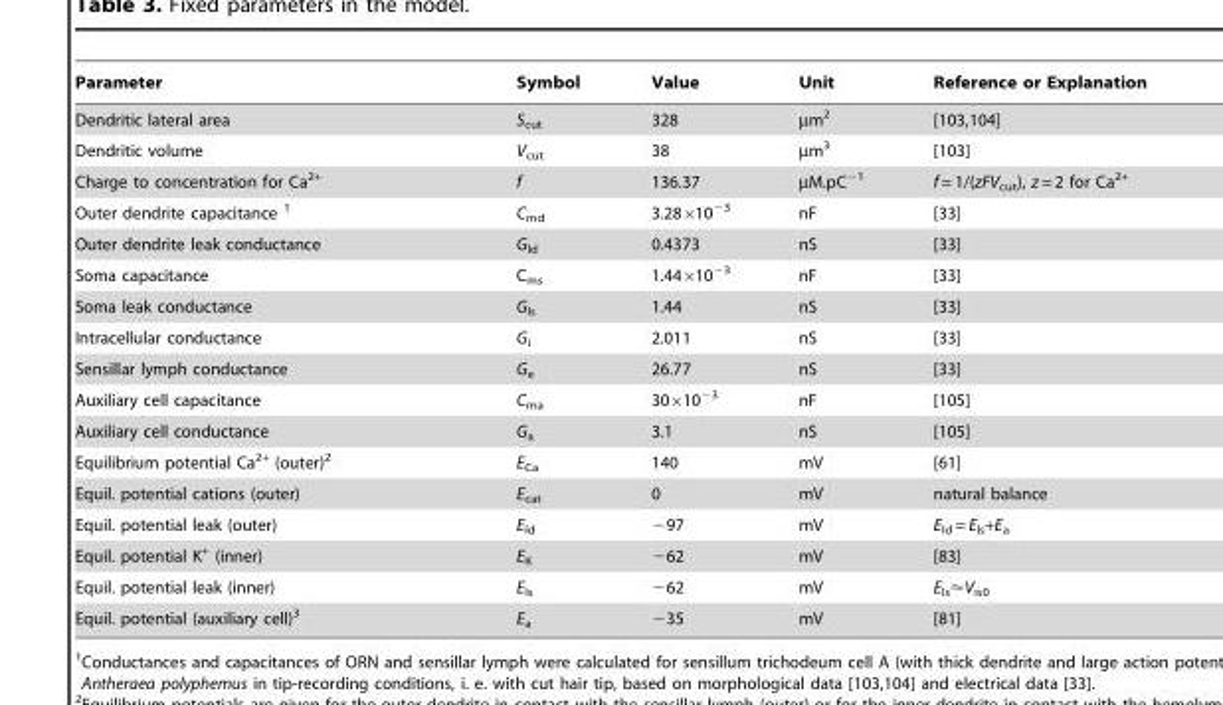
<table><thead><tr><td>Parameter</td><td>Symbol</td><td>Value</td><td>Unit</td><td>Reference or Explanation</td></tr></thead><tbody><tr><td>Dendritic lateral area</td><td>S<sub>cut</sub></td><td>328</td><td>µm<sup>2</sup></td><td>[103,104]</td></tr><tr><td>Dendritic volume</td><td>V<sub>cut</sub></td><td>38</td><td>µm<sup>3</sup></td><td>[103]</td></tr><tr><td>Charge to concentration for Ca<sup>2+</sup></td><td>f</td><td>136.37</td><td>µM.pC<sup>−1</sup></td><td>f = 1/(zFV<sub>cut</sub>), z = 2 for Ca<sup>2+</sup></td></tr><tr><td>Outer dendrite capacitance 1</td><td>C<sub>md</sub></td><td>3.28×10<sup>−3</sup></td><td>nF</td><td>[33]</td></tr><tr><td>Outer dendrite leak conductance</td><td>G<sub>ld</sub></td><td>0.4373</td><td>nS</td><td>[33]</td></tr><tr><td>Soma capacitance</td><td>C<sub>ms</sub></td><td>1.44×10<sup>−3</sup></td><td>nF</td><td>[33]</td></tr><tr><td>Soma leak conductance</td><td>G<sub>ls</sub></td><td>1.44</td><td>nS</td><td>[33]</td></tr><tr><td>Intracellular conductance</td><td>G<sub>i</sub></td><td>2.011</td><td>nS</td><td>[33]</td></tr><tr><td>Sensillar lymph conductance</td><td>G<sub>e</sub></td><td>26.77</td><td>nS</td><td>[33]</td></tr><tr><td>Auxiliary cell capacitance</td><td>C<sub>ma</sub></td><td>30×10<sup>−3</sup></td><td>nF</td><td>[105]</td></tr><tr><td>Auxiliary cell conductance</td><td>G<sub>a</sub></td><td>3.1</td><td>nS</td><td>[105]</td></tr><tr><td>Equilibrium potential Ca<sup>2+</sup> (outer)<sup>2</sup></td><td>E<sub>Ca</sub></td><td>140</td><td>mV</td><td>[61]</td></tr><tr><td>Equil. potential cations (outer)</td><td>E<sub>cat</sub></td><td>0</td><td>mV</td><td>natural balance</td></tr><tr><td>Equil. potential leak (outer)</td><td>E<sub>ld</sub></td><td>−97</td><td>mV</td><td>E<sub>ld</sub> = E<sub>ls</sub>+E<sub>a</sub></td></tr><tr><td>Equil. potential K<sup>+</sup> (inner)</td><td>E<sub>K</sub></td><td>−62</td><td>mV</td><td>[83]</td></tr><tr><td>Equil. potential leak (inner)</td><td>E<sub>ls</sub></td><td>−62</td><td>mV</td><td>Els&lt;Vis0</td></tr><tr><td>Equil. potential (auxiliary cell)<sup>3</sup></td><td>E<sub>a</sub></td><td>−35</td><td>mV</td><td>[81]</td></tr></tbody></table>